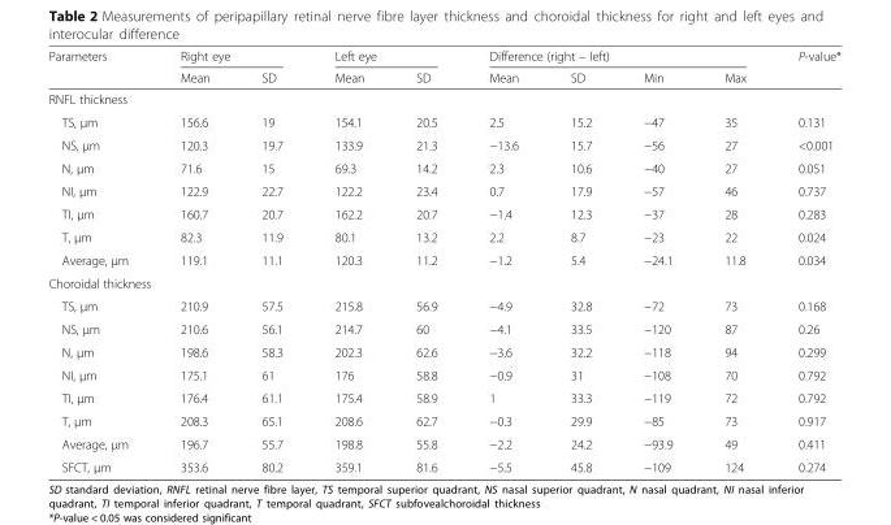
<table><thead><tr><td rowspan="2">Parameters</td><td colspan="2">Right eye</td><td colspan="2">Left eye</td><td colspan="4">Difference (right – left)</td><td rowspan="2">P-value*</td></tr><tr><td>Mean</td><td>SD</td><td>Mean</td><td>SD</td><td>Mean</td><td>SD</td><td>Min</td><td>Max</td></tr></thead><tbody><tr><td colspan="10">RNFL thickness</td></tr><tr><td>TS, μm</td><td>156.6</td><td>19</td><td>154.1</td><td>20.5</td><td>2.5</td><td>15.2</td><td>−47</td><td>35</td><td>0.131</td></tr><tr><td>NS, μm</td><td>120.3</td><td>19.7</td><td>133.9</td><td>21.3</td><td>−13.6</td><td>15.7</td><td>−56</td><td>27</td><td>&lt;0.001</td></tr><tr><td>N, μm</td><td>71.6</td><td>15</td><td>69.3</td><td>14.2</td><td>2.3</td><td>10.6</td><td>−40</td><td>27</td><td>0.051</td></tr><tr><td>NI, μm</td><td>122.9</td><td>22.7</td><td>122.2</td><td>23.4</td><td>0.7</td><td>17.9</td><td>−57</td><td>46</td><td>0.737</td></tr><tr><td>TI, μm</td><td>160.7</td><td>20.7</td><td>162.2</td><td>20.7</td><td>−1.4</td><td>12.3</td><td>−37</td><td>28</td><td>0.283</td></tr><tr><td>T, μm</td><td>82.3</td><td>11.9</td><td>80.1</td><td>13.2</td><td>2.2</td><td>8.7</td><td>−23</td><td>22</td><td>0.024</td></tr><tr><td>Average, μm</td><td>119.1</td><td>11.1</td><td>120.3</td><td>11.2</td><td>−1.2</td><td>5.4</td><td>−24.1</td><td>11.8</td><td>0.034</td></tr><tr><td colspan="10">Choroidal thickness</td></tr><tr><td>TS, μm</td><td>210.9</td><td>57.5</td><td>215.8</td><td>56.9</td><td>−4.9</td><td>32.8</td><td>−72</td><td>73</td><td>0.168</td></tr><tr><td>NS, μm</td><td>210.6</td><td>56.1</td><td>214.7</td><td>60</td><td>−4.1</td><td>33.5</td><td>−120</td><td>87</td><td>0.26</td></tr><tr><td>N, μm</td><td>198.6</td><td>58.3</td><td>202.3</td><td>62.6</td><td>−3.6</td><td>32.2</td><td>−118</td><td>94</td><td>0.299</td></tr><tr><td>NI, μm</td><td>175.1</td><td>61</td><td>176</td><td>58.8</td><td>−0.9</td><td>31</td><td>−108</td><td>70</td><td>0.792</td></tr><tr><td>TI, μm</td><td>176.4</td><td>61.1</td><td>175.4</td><td>58.9</td><td>1</td><td>33.3</td><td>−119</td><td>72</td><td>0.792</td></tr><tr><td>T, μm</td><td>208.3</td><td>65.1</td><td>208.6</td><td>62.7</td><td>−0.3</td><td>29.9</td><td>−85</td><td>73</td><td>0.917</td></tr><tr><td>Average, μm</td><td>196.7</td><td>55.7</td><td>198.8</td><td>55.8</td><td>−2.2</td><td>24.2</td><td>−93.9</td><td>49</td><td>0.411</td></tr><tr><td>SFCT, μm</td><td>353.6</td><td>80.2</td><td>359.1</td><td>81.6</td><td>−5.5</td><td>45.8</td><td>−109</td><td>124</td><td>0.274</td></tr></tbody></table>